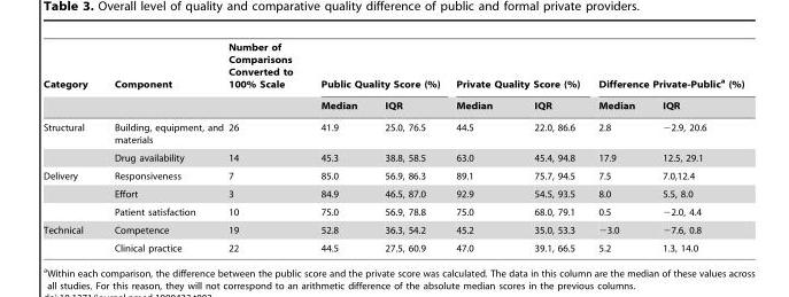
<table><thead><tr><td rowspan="2">Category</td><td rowspan="2">Component</td><td rowspan="2">Number of Comparisons Converted to 100% Scale</td><td colspan="2">Public Quality Score (%)</td><td colspan="2">Private Quality Score (%)</td><td colspan="2">Difference Private-Public<sup>a</sup> (%)</td></tr><tr><td>Median</td><td>IQR</td><td>Median</td><td>IQR</td><td>Median</td><td>IQR</td></tr></thead><tbody><tr><td rowspan="2">Structural</td><td>Building, equipment, and materials</td><td>26</td><td>41.9</td><td>25.0, 76.5</td><td>44.5</td><td>22.0, 86.6</td><td>2.8</td><td>−2.9, 20.6</td></tr><tr><td>Drug availability</td><td>14</td><td>45.3</td><td>38.8, 58.5</td><td>63.0</td><td>45.4, 94.8</td><td>17.9</td><td>12.5, 29.1</td></tr><tr><td rowspan="3">Delivery</td><td>Responsiveness</td><td>7</td><td>85.0</td><td>56.9, 86.3</td><td>89.1</td><td>75.7, 94.5</td><td>7.5</td><td>7.0,12.4</td></tr><tr><td>Effort</td><td>3</td><td>84.9</td><td>46.5, 87.0</td><td>92.9</td><td>54.5, 93.5</td><td>8.0</td><td>5.5, 8.0</td></tr><tr><td>Patient satisfaction</td><td>10</td><td>75.0</td><td>56.9, 78.8</td><td>75.0</td><td>68.0, 79.1</td><td>0.5</td><td>−2.0, 4.4</td></tr><tr><td rowspan="2">Technical</td><td>Competence</td><td>19</td><td>52.8</td><td>36.3, 54.2</td><td>45.2</td><td>35.0, 53.3</td><td>−3.0</td><td>−7.6, 0.8</td></tr><tr><td>Clinical practice</td><td>22</td><td>44.5</td><td>27.5, 60.9</td><td>47.0</td><td>39.1, 66.5</td><td>5.2</td><td>1.3, 14.0</td></tr></tbody></table>